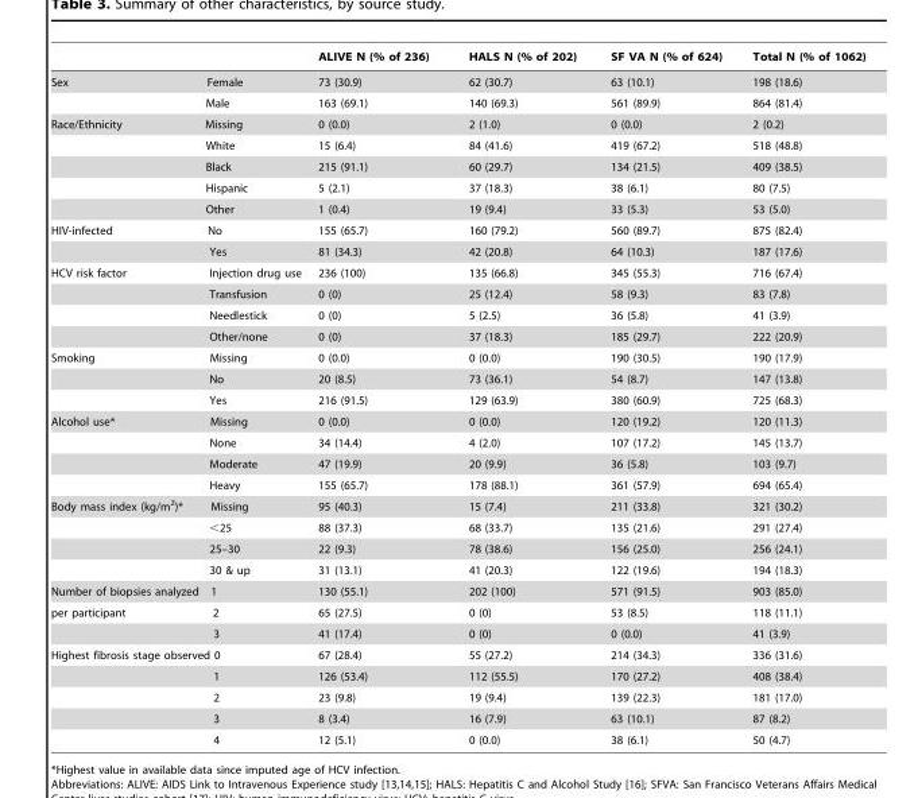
<table><thead><tr><td></td><td>ALIVE N (% of 236)</td><td>HALS N (% of 202)</td><td>SF VA N (% of 624)</td><td>Total N (% of 1062)</td></tr></thead><tbody><tr><td>Sex Female</td><td>73 (30.9)</td><td>62 (30.7)</td><td>63 (10.1)</td><td>198 (18.6)</td></tr><tr><td>Male</td><td>163 (69.1)</td><td>140 (69.3)</td><td>561 (89.9)</td><td>864 (81.4)</td></tr><tr><td>Race/Ethnicity Missing</td><td>0 (0.0)</td><td>2 (1.0)</td><td>0 (0.0)</td><td>2 (0.2)</td></tr><tr><td>White</td><td>15 (6.4)</td><td>84 (41.6)</td><td>419 (67.2)</td><td>518 (48.8)</td></tr><tr><td>Black</td><td>215 (91.1)</td><td>60 (29.7)</td><td>134 (21.5)</td><td>409 (38.5)</td></tr><tr><td>Hispanic</td><td>5 (2.1)</td><td>37 (18.3)</td><td>38 (6.1)</td><td>80 (7.5)</td></tr><tr><td>Other</td><td>1 (0.4)</td><td>19 (9.4)</td><td>33 (5.3)</td><td>53 (5.0)</td></tr><tr><td>HIV-infected No</td><td>155 (65.7)</td><td>160 (79.2)</td><td>560 (89.7)</td><td>875 (82.4)</td></tr><tr><td>Yes</td><td>81 (34.3)</td><td>42 (20.8)</td><td>64 (10.3)</td><td>187 (17.6)</td></tr><tr><td>HCV risk factor Injection drug use</td><td>236 (100)</td><td>135 (66.8)</td><td>345 (55.3)</td><td>716 (67.4)</td></tr><tr><td>Transfusion</td><td>0 (0)</td><td>25 (12.4)</td><td>58 (9.3)</td><td>83 (7.8)</td></tr><tr><td>Needlestick</td><td>0 (0)</td><td>5 (2.5)</td><td>36 (5.8)</td><td>41 (3.9)</td></tr><tr><td>Other/none</td><td>0 (0)</td><td>37 (18.3)</td><td>185 (29.7)</td><td>222 (20.9)</td></tr><tr><td>Smoking Missing</td><td>0 (0.0)</td><td>0 (0.0)</td><td>190 (30.5)</td><td>190 (17.9)</td></tr><tr><td>No</td><td>20 (8.5)</td><td>73 (36.1)</td><td>54 (8.7)</td><td>147 (13.8)</td></tr><tr><td>Yes</td><td>216 (91.5)</td><td>129 (63.9)</td><td>380 (60.9)</td><td>725 (68.3)</td></tr><tr><td>Alcohol use* Missing</td><td>0 (0.0)</td><td>0 (0.0)</td><td>120 (19.2)</td><td>120 (11.3)</td></tr><tr><td>None</td><td>34 (14.4)</td><td>4 (2.0)</td><td>107 (17.2)</td><td>145 (13.7)</td></tr><tr><td>Moderate</td><td>47 (19.9)</td><td>20 (9.9)</td><td>36 (5.8)</td><td>103 (9.7)</td></tr><tr><td>Heavy</td><td>155 (65.7)</td><td>178 (88.1)</td><td>361 (57.9)</td><td>694 (65.4)</td></tr><tr><td>Body mass index (kg/m<sup>2</sup>)* Missing</td><td>95 (40.3)</td><td>15 (7.4)</td><td>211 (33.8)</td><td>321 (30.2)</td></tr><tr><td>&lt;25</td><td>88 (37.3)</td><td>68 (33.7)</td><td>135 (21.6)</td><td>291 (27.4)</td></tr><tr><td>25–30</td><td>22 (9.3)</td><td>78 (38.6)</td><td>156 (25.0)</td><td>256 (24.1)</td></tr><tr><td>30 &amp; up</td><td>31 (13.1)</td><td>41 (20.3)</td><td>122 (19.6)</td><td>194 (18.3)</td></tr><tr><td>Number of biopsies analyzed 1</td><td>130 (55.1)</td><td>202 (100)</td><td>571 (91.5)</td><td>903 (85.0)</td></tr><tr><td>per participant 2</td><td>65 (27.5)</td><td>0 (0)</td><td>53 (8.5)</td><td>118 (11.1)</td></tr><tr><td>3</td><td>41 (17.4)</td><td>0 (0)</td><td>0 (0.0)</td><td>41 (3.9)</td></tr><tr><td>Highest fibrosis stage observed 0</td><td>67 (28.4)</td><td>55 (27.2)</td><td>214 (34.3)</td><td>336 (31.6)</td></tr><tr><td>1</td><td>126 (53.4)</td><td>112 (55.5)</td><td>170 (27.2)</td><td>408 (38.4)</td></tr><tr><td>2</td><td>23 (9.8)</td><td>19 (9.4)</td><td>139 (22.3)</td><td>181 (17.0)</td></tr><tr><td>3</td><td>8 (3.4)</td><td>16 (7.9)</td><td>63 (10.1)</td><td>87 (8.2)</td></tr><tr><td>4</td><td>12 (5.1)</td><td>0 (0.0)</td><td>38 (6.1)</td><td>50 (4.7)</td></tr></tbody></table>